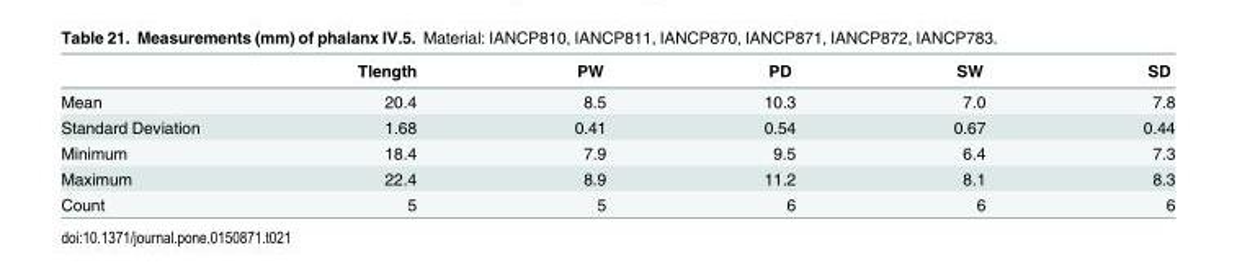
<table><thead><tr><td></td><td>Tlength</td><td>PW</td><td>PD</td><td>SW</td><td>SD</td></tr></thead><tbody><tr><td>Mean</td><td>20.4</td><td>8.5</td><td>10.3</td><td>7.0</td><td>7.8</td></tr><tr><td>Standard Deviation</td><td>1.68</td><td>0.41</td><td>0.54</td><td>0.67</td><td>0.44</td></tr><tr><td>Minimum</td><td>18.4</td><td>7.9</td><td>9.5</td><td>6.4</td><td>7.3</td></tr><tr><td>Maximum</td><td>22.4</td><td>8.9</td><td>11.2</td><td>8.1</td><td>8.3</td></tr><tr><td>Count</td><td>5</td><td>5</td><td>6</td><td>6</td><td>6</td></tr></tbody></table>